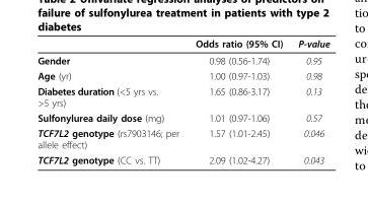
<table><thead><tr><td></td><td>Odds ratio (95% CI)</td><td>P-value</td></tr></thead><tbody><tr><td>Gender</td><td>0.98 (0.56-1.74)</td><td>0.95</td></tr><tr><td>Age (yr)</td><td>1.00 (0.97-1.03)</td><td>0.98</td></tr><tr><td>Diabetes duration (&lt;5 yrs vs. &gt;5 yrs)</td><td>1.65 (0.86-3.17)</td><td>0.13</td></tr><tr><td>Sulfonylurea daily dose (mg)</td><td>1.01 (0.97-1.06)</td><td>0.57</td></tr><tr><td>TCF7L2 genotype (rs7903146; per allele effect)</td><td>1.57 (1.01-2.45)</td><td>0.046</td></tr><tr><td>TCF7L2 genotype (CC vs. TT)</td><td>2.09 (1.02-4.27)</td><td>0.043</td></tr></tbody></table>